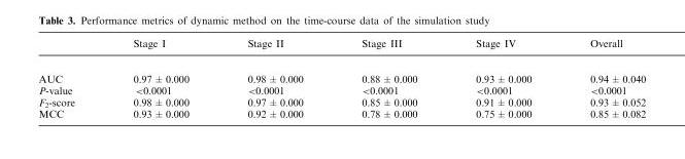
<table><thead><tr><td></td><td>Stage I</td><td>Stage II</td><td>Stage III</td><td>Stage IV</td><td>Overall</td></tr></thead><tbody><tr><td>AUC</td><td>0.97 ± 0.000</td><td>0.98 ± 0.000</td><td>0.88 ± 0.000</td><td>0.93 ± 0.000</td><td>0.94 ± 0.040</td></tr><tr><td>P-value</td><td>&lt;0.0001</td><td>&lt;0.0001</td><td>&lt;0.0001</td><td>&lt;0.0001</td><td>&lt;0.0001</td></tr><tr><td>F<sub>2</sub>-score</td><td>0.98 ± 0.000</td><td>0.97 ± 0.000</td><td>0.85 ± 0.000</td><td>0.91 ± 0.000</td><td>0.93 ± 0.052</td></tr><tr><td>MCC</td><td>0.93 ± 0.000</td><td>0.92 ± 0.000</td><td>0.78 ± 0.000</td><td>0.75 ± 0.000</td><td>0.85 ± 0.082</td></tr></tbody></table>